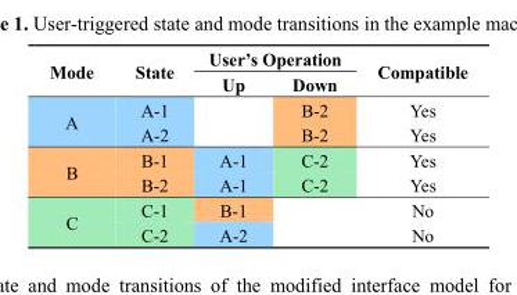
<table><thead><tr><td rowspan="2">Mode</td><td rowspan="2">State</td><td colspan="2">User’s Operation</td><td rowspan="2">Compatible</td></tr><tr><td>Up</td><td>Down</td></tr></thead><tbody><tr><td rowspan="2">A</td><td>A-1</td><td></td><td>B-2</td><td>Yes</td></tr><tr><td>A-2</td><td></td><td>B-2</td><td>Yes</td></tr><tr><td rowspan="2">B</td><td>B-1</td><td>A-1</td><td>C-2</td><td>Yes</td></tr><tr><td>B-2</td><td>A-1</td><td>C-2</td><td>Yes</td></tr><tr><td rowspan="2">C</td><td>C-1</td><td>B-1</td><td></td><td>No</td></tr><tr><td>C-2</td><td>A-2</td><td></td><td>No</td></tr></tbody></table>